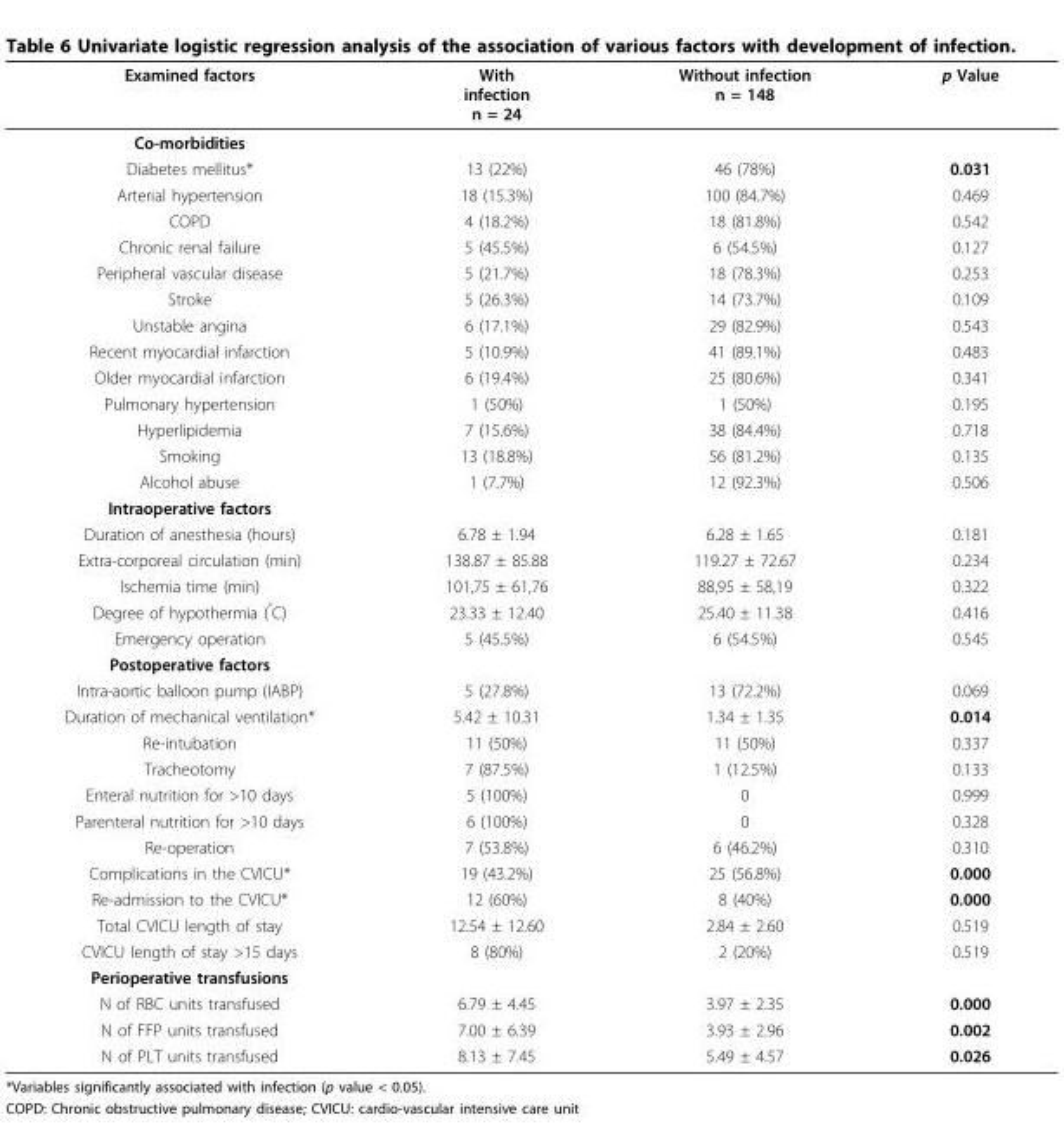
<table><thead><tr><td>Examined factors</td><td>With infection n = 24</td><td>Without infection n = 148</td><td>p Value</td></tr></thead><tbody><tr><td colspan="4">Co-morbidities</td></tr><tr><td>Diabetes mellitus*</td><td>13 (22%)</td><td>46 (78%)</td><td>0.031</td></tr><tr><td>Arterial hypertension</td><td>18 (15.3%)</td><td>100 (84.7%)</td><td>0.469</td></tr><tr><td>COPD</td><td>4 (18.2%)</td><td>18 (81.8%)</td><td>0.542</td></tr><tr><td>Chronic renal failure</td><td>5 (45.5%)</td><td>6 (54.5%)</td><td>0.127</td></tr><tr><td>Peripheral vascular disease</td><td>5 (21.7%)</td><td>18 (78.3%)</td><td>0.253</td></tr><tr><td>Stroke</td><td>5 (26.3%)</td><td>14 (73.7%)</td><td>0.109</td></tr><tr><td>Unstable angina</td><td>6 (17.1%)</td><td>29 (82.9%)</td><td>0.543</td></tr><tr><td>Recent myocardial infarction</td><td>5 (10.9%)</td><td>41 (89.1%)</td><td>0.483</td></tr><tr><td>Older myocardial infarction</td><td>6 (19.4%)</td><td>25 (80.6%)</td><td>0.341</td></tr><tr><td>Pulmonary hypertension</td><td>1 (50%)</td><td>1 (50%)</td><td>0.195</td></tr><tr><td>Hyperlipidemia</td><td>7 (15.6%)</td><td>38 (84.4%)</td><td>0.718</td></tr><tr><td>Smoking</td><td>13 (18.8%)</td><td>56 (81.2%)</td><td>0.135</td></tr><tr><td>Alcohol abuse</td><td>1 (7.7%)</td><td>12 (92.3%)</td><td>0.506</td></tr><tr><td colspan="4">Intraoperative factors</td></tr><tr><td>Duration of anesthesia (hours)</td><td>6.78 ± 1.94</td><td>6.28 ± 1.65</td><td>0.181</td></tr><tr><td>Extra-corporeal circulation (min)</td><td>138.87 ± 85.88</td><td>119.27 ± 72.67</td><td>0.234</td></tr><tr><td>Ischemia time (min)</td><td>101,75 ± 61,76</td><td>88,95 ± 58,19</td><td>0.322</td></tr><tr><td>Degree of hypothermia (<sup>°</sup>C)</td><td>23.33 ± 12.40</td><td>25.40 ± 11.38</td><td>0.416</td></tr><tr><td>Emergency operation</td><td>5 (45.5%)</td><td>6 (54.5%)</td><td>0.545</td></tr><tr><td colspan="4">Postoperative factors</td></tr><tr><td>Intra-aortic balloon pump (IABP)</td><td>5 (27.8%)</td><td>13 (72.2%)</td><td>0.069</td></tr><tr><td>Duration of mechanical ventilation*</td><td>5.42 ± 10.31</td><td>1.34 ± 1.35</td><td>0.014</td></tr><tr><td>Re-intubation</td><td>11 (50%)</td><td>11 (50%)</td><td>0.337</td></tr><tr><td>Tracheotomy</td><td>7 (87.5%)</td><td>1 (12.5%)</td><td>0.133</td></tr><tr><td>Enteral nutrition for &gt;10 days</td><td>5 (100%)</td><td>0</td><td>0.999</td></tr><tr><td>Parenteral nutrition for &gt;10 days</td><td>6 (100%)</td><td>0</td><td>0.328</td></tr><tr><td>Re-operation</td><td>7 (53.8%)</td><td>6 (46.2%)</td><td>0.310</td></tr><tr><td>Complications in the CVICU*</td><td>19 (43.2%)</td><td>25 (56.8%)</td><td>0.000</td></tr><tr><td>Re-admission to the CVICU*</td><td>12 (60%)</td><td>8 (40%)</td><td>0.000</td></tr><tr><td>Total CVICU length of stay</td><td>12.54 ± 12.60</td><td>2.84 ± 2.60</td><td>0.519</td></tr><tr><td>CVICU length of stay &gt;15 days</td><td>8 (80%)</td><td>2 (20%)</td><td>0.519</td></tr><tr><td colspan="4">Perioperative transfusions</td></tr><tr><td>N of RBC units transfused</td><td>6.79 ± 4.45</td><td>3.97 ± 2.35</td><td>0.000</td></tr><tr><td>N of FFP units transfused</td><td>7.00 ± 6.39</td><td>3.93 ± 2.96</td><td>0.002</td></tr><tr><td>N of PLT units transfused</td><td>8.13 ± 7.45</td><td>5.49 ± 4.57</td><td>0.026</td></tr></tbody></table>